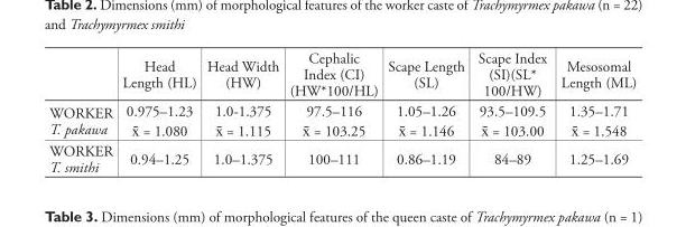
<table><thead><tr><td></td><td>Head Length (HL)</td><td>Head Width (HW)</td><td>Cephalic Index (CI) (HW*100/HL)</td><td>Scape Length (SL)</td><td>Scape Index (SI)(SL* 100/HW)</td><td>Mesosomal Length (ML)</td></tr></thead><tbody><tr><td rowspan="2">WORKER T. pakawa</td><td>0.975–1.23</td><td>1.0-1.375</td><td>97.5–116</td><td>1.05–1.26</td><td>93.5–109.5</td><td>1.35–1.71</td></tr><tr><td>x̄ = 1.080</td><td>x̄ = 1.115</td><td>x̄ = 103.25</td><td>x̄ = 1.146</td><td>x̄ = 103.00</td><td>x̄ = 1.548</td></tr><tr><td>WORKER T. smithi</td><td>0.94–1.25</td><td>1.0–1.375</td><td>100–111</td><td>0.86–1.19</td><td>84–89</td><td>1.25–1.69</td></tr></tbody></table>